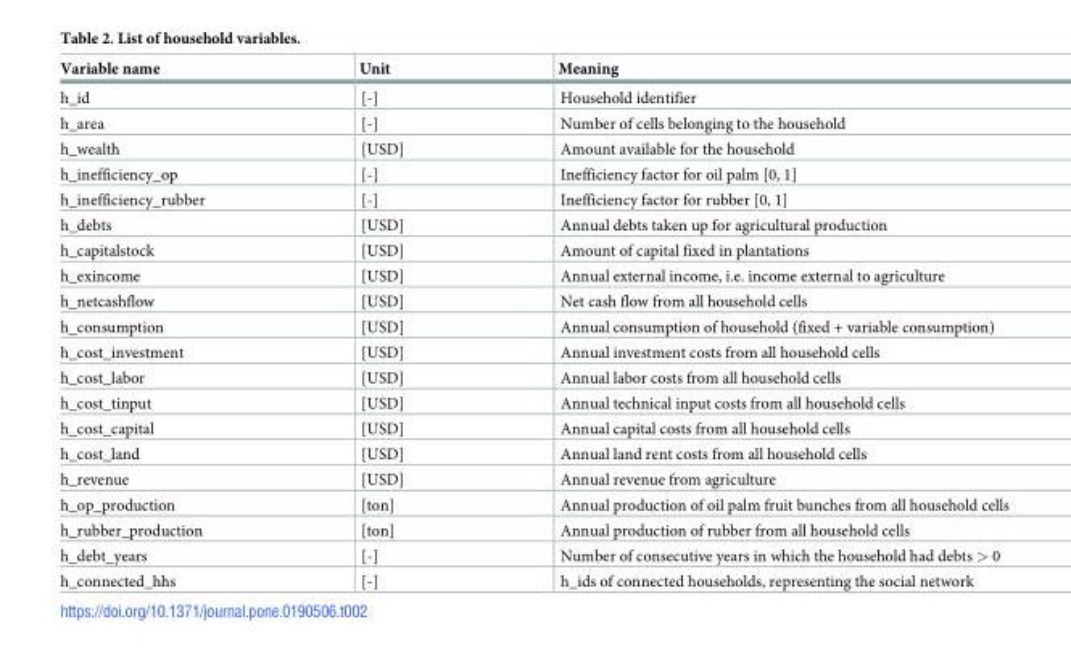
<table><thead><tr><td>Variable name</td><td>Unit</td><td>Meaning</td></tr></thead><tbody><tr><td>h_id</td><td>[-]</td><td>Household identifier</td></tr><tr><td>h_area</td><td>[-]</td><td>Number of cells belonging to the household</td></tr><tr><td>h_wealth</td><td>[USD]</td><td>Amount available for the household</td></tr><tr><td>h_inefficiency_op</td><td>[-]</td><td>Inefficiency factor for oil palm [0, 1]</td></tr><tr><td>h_inefficiency_rubber</td><td>[-]</td><td>Inefficiency factor for rubber [0, 1]</td></tr><tr><td>h_debts</td><td>[USD]</td><td>Annual debts taken up for agricultural production</td></tr><tr><td>h_capitalstock</td><td>[USD]</td><td>Amount of capital fixed in plantations</td></tr><tr><td>h_exincome</td><td>[USD]</td><td>Annual external income, i.e. income external to agriculture</td></tr><tr><td>h_netcashflow</td><td>[USD]</td><td>Net cash flow from all household cells</td></tr><tr><td>h_consumption</td><td>[USD]</td><td>Annual consumption of household (fixed + variable consumption)</td></tr><tr><td>h_cost_investment</td><td>[USD]</td><td>Annual investment costs from all household cells</td></tr><tr><td>h_cost_labor</td><td>[USD]</td><td>Annual labor costs from all household cells</td></tr><tr><td>h_cost_tinput</td><td>[USD]</td><td>Annual technical input costs from all household cells</td></tr><tr><td>h_cost_capital</td><td>[USD]</td><td>Annual capital costs from all household cells</td></tr><tr><td>h_cost_land</td><td>[USD]</td><td>Annual land rent costs from all household cells</td></tr><tr><td>h_revenue</td><td>[USD]</td><td>Annual revenue from agriculture</td></tr><tr><td>h_op_production</td><td>[ton]</td><td>Annual production of oil palm fruit bunches from all household cells</td></tr><tr><td>h_rubber_production</td><td>[ton]</td><td>Annual production of rubber from all household cells</td></tr><tr><td>h_debt_years</td><td>[-]</td><td>Number of consecutive years in which the household had debts &gt; 0</td></tr><tr><td>h_connected_hhs</td><td>[-]</td><td>h_ids of connected households, representing the social network</td></tr></tbody></table>